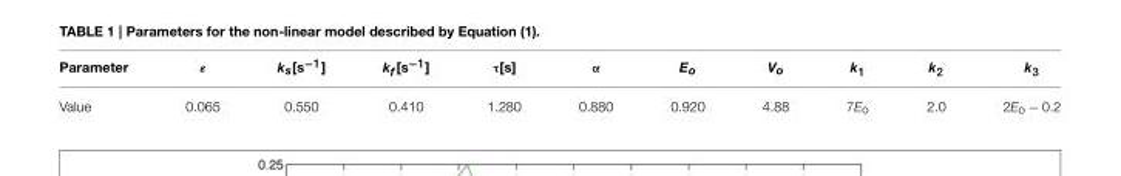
<table><thead><tr><td>Parameter</td><td>ε</td><td>k<sub>s</sub>[s<sup>−1</sup>]</td><td>k<sub>f</sub>[s<sup>−1</sup>]</td><td>τ[s]</td><td>α</td><td>E<sub>o</sub></td><td>V<sub>o</sub></td><td>k<sub>1</sub></td><td>k<sub>2</sub></td><td>k<sub>3</sub></td></tr></thead><tbody><tr><td>Value</td><td>0.065</td><td>0.550</td><td>0.410</td><td>1.280</td><td>0.880</td><td>0.920</td><td>4.88</td><td>7E<sub>o</sub></td><td>2.0</td><td>2E<sub>o</sub> − 0.2</td></tr></tbody></table>